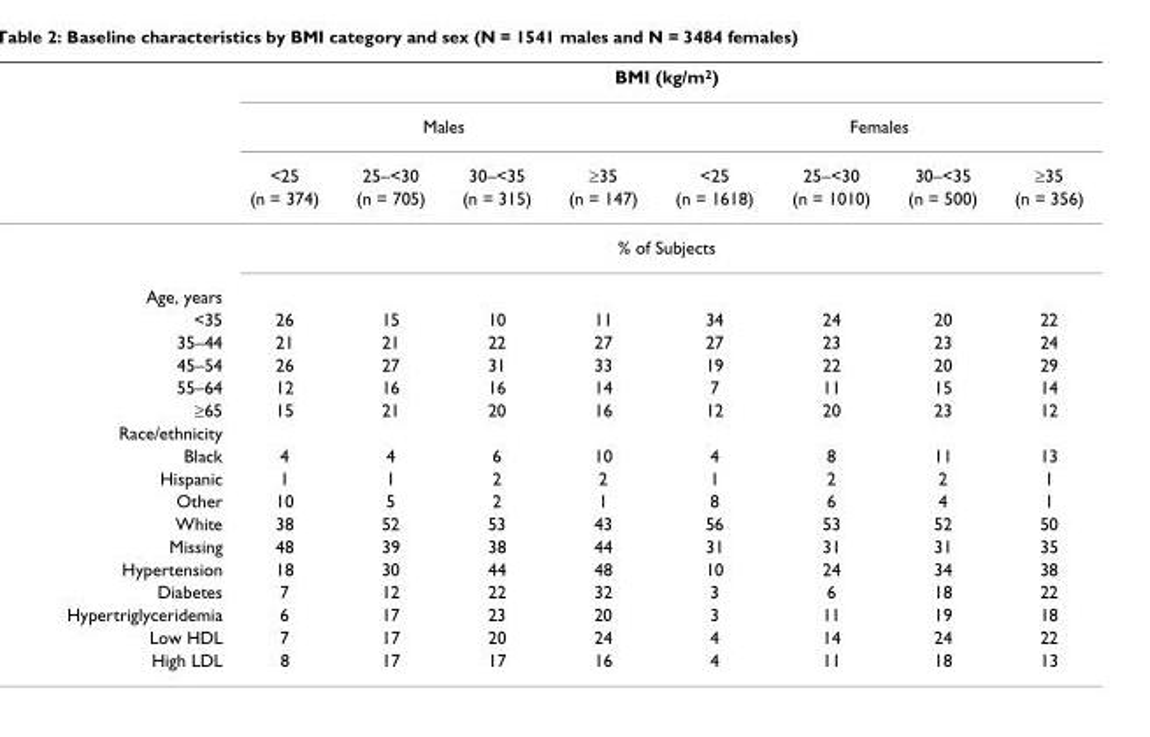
<table><thead><tr><td rowspan="4"></td><td colspan="8">BMI (kg/m<sup>2</sup>)</td></tr><tr><td colspan="4">Males</td><td colspan="4">Females</td></tr><tr><td rowspan="2">&lt;25 (n = 374)</td><td rowspan="2">25–&lt;30 (n = 705)</td><td rowspan="2">30–&lt;35 (n = 315)</td><td rowspan="2">≥35 (n = 147)</td><td rowspan="2">&lt;25 (n = 1618)</td><td rowspan="2">25–&lt;30 (n = 1010)</td><td rowspan="2">30–&lt;35 (n = 500)</td><td rowspan="2">≥35 (n = 356)</td></tr><tr></tr></thead><tbody><tr><td></td><td colspan="8">% of Subjects</td></tr><tr><td colspan="9">Age, years</td></tr><tr><td>&lt;35</td><td>26</td><td>15</td><td>10</td><td>11</td><td>34</td><td>24</td><td>20</td><td>22</td></tr><tr><td>35–44</td><td>21</td><td>21</td><td>22</td><td>27</td><td>27</td><td>23</td><td>23</td><td>24</td></tr><tr><td>45–54</td><td>26</td><td>27</td><td>31</td><td>33</td><td>19</td><td>22</td><td>20</td><td>29</td></tr><tr><td>55–64</td><td>12</td><td>16</td><td>16</td><td>14</td><td>7</td><td>11</td><td>15</td><td>14</td></tr><tr><td>≥65</td><td>15</td><td>21</td><td>20</td><td>16</td><td>12</td><td>20</td><td>23</td><td>12</td></tr><tr><td colspan="9">Race/ethnicity</td></tr><tr><td>Black</td><td>4</td><td>4</td><td>6</td><td>10</td><td>4</td><td>8</td><td>11</td><td>13</td></tr><tr><td>Hispanic</td><td>1</td><td>1</td><td>2</td><td>2</td><td>1</td><td>2</td><td>2</td><td>1</td></tr><tr><td>Other</td><td>10</td><td>5</td><td>2</td><td>1</td><td>8</td><td>6</td><td>4</td><td>1</td></tr><tr><td>White</td><td>38</td><td>52</td><td>53</td><td>43</td><td>56</td><td>53</td><td>52</td><td>50</td></tr><tr><td>Missing</td><td>48</td><td>39</td><td>38</td><td>44</td><td>31</td><td>31</td><td>31</td><td>35</td></tr><tr><td>Hypertension</td><td>18</td><td>30</td><td>44</td><td>48</td><td>10</td><td>24</td><td>34</td><td>38</td></tr><tr><td>Diabetes</td><td>7</td><td>12</td><td>22</td><td>32</td><td>3</td><td>6</td><td>18</td><td>22</td></tr><tr><td>Hypertriglyceridemia</td><td>6</td><td>17</td><td>23</td><td>20</td><td>3</td><td>11</td><td>19</td><td>18</td></tr><tr><td>Low HDL</td><td>7</td><td>17</td><td>20</td><td>24</td><td>4</td><td>14</td><td>24</td><td>22</td></tr><tr><td>High LDL</td><td>8</td><td>17</td><td>17</td><td>16</td><td>4</td><td>11</td><td>18</td><td>13</td></tr></tbody></table>